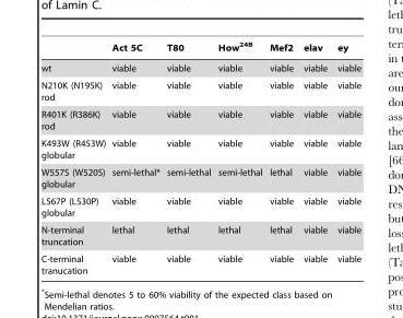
<table><thead><tr><td></td><td>Act 5C</td><td>T80</td><td>How<sup>24B</sup></td><td>Mef2</td><td>elav</td><td>ey</td></tr></thead><tbody><tr><td>wt</td><td>viable</td><td>viable</td><td>viable</td><td>viable</td><td>viable</td><td>viable</td></tr><tr><td>N210K (N195K) rod</td><td>viable</td><td>viable</td><td>viable</td><td>viable</td><td>viable</td><td>viable</td></tr><tr><td>R401K (R386K) rod</td><td>viable</td><td>viable</td><td>viable</td><td>viable</td><td>viable</td><td>viable</td></tr><tr><td>K493W (R453W) globular</td><td>viable</td><td>viable</td><td>viable</td><td>viable</td><td>viable</td><td>viable</td></tr><tr><td>W557S (W520S) globular</td><td>semi-lethal*</td><td>semi-lethal</td><td>semi-lethal</td><td>lethal</td><td>viable</td><td>viable</td></tr><tr><td>L567P (L530P) globular</td><td>viable</td><td>viable</td><td>viable</td><td>viable</td><td>viable</td><td>viable</td></tr><tr><td>N-terminal truncation</td><td>lethal</td><td>lethal</td><td>lethal</td><td>lethal</td><td>viable</td><td>viable</td></tr><tr><td>C-terminal tranucation</td><td>viable</td><td>viable</td><td>viable</td><td>viable</td><td>viable</td><td>viable</td></tr></tbody></table>